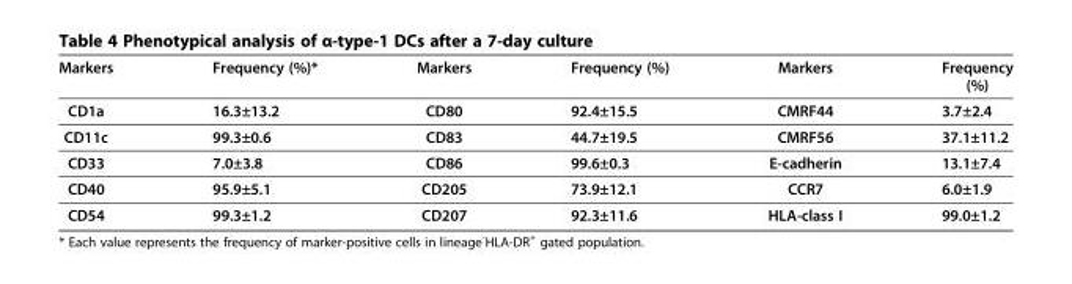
<table><thead><tr><td>Markers</td><td>Frequency (%)*</td><td>Markers</td><td>Frequency (%)</td><td>Markers</td><td>Frequency (%)</td></tr></thead><tbody><tr><td>CD1a</td><td>16.3±13.2</td><td>CD80</td><td>92.4±15.5</td><td>CMRF44</td><td>3.7±2.4</td></tr><tr><td>CD11c</td><td>99.3±0.6</td><td>CD83</td><td>44.7±19.5</td><td>CMRF56</td><td>37.1±11.2</td></tr><tr><td>CD33</td><td>7.0±3.8</td><td>CD86</td><td>99.6±0.3</td><td>E-cadherin</td><td>13.1±7.4</td></tr><tr><td>CD40</td><td>95.9±5.1</td><td>CD205</td><td>73.9±12.1</td><td>CCR7</td><td>6.0±1.9</td></tr><tr><td>CD54</td><td>99.3±1.2</td><td>CD207</td><td>92.3±11.6</td><td>HLA-class I</td><td>99.0±1.2</td></tr></tbody></table>